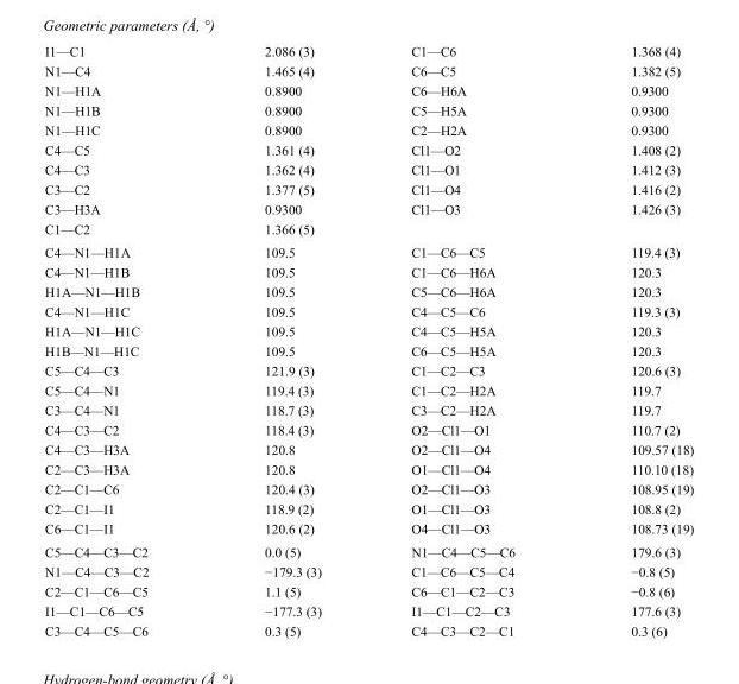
<table><tbody><tr><td>I1—C1</td><td>2.086 (3)</td><td>C1—C6</td><td>1.368 (4)</td></tr><tr><td>N1—C4</td><td>1.465 (4)</td><td>C6—C5</td><td>1.382 (5)</td></tr><tr><td>N1—H1A</td><td>0.8900</td><td>C6—H6A</td><td>0.9300</td></tr><tr><td>N1—H1B</td><td>0.8900</td><td>C5—H5A</td><td>0.9300</td></tr><tr><td>N1—H1C</td><td>0.8900</td><td>C2—H2A</td><td>0.9300</td></tr><tr><td>C4—C5</td><td>1.361 (4)</td><td>Cl1—O2</td><td>1.408 (2)</td></tr><tr><td>C4—C3</td><td>1.362 (4)</td><td>Cl1—O1</td><td>1.412 (3)</td></tr><tr><td>C3—C2</td><td>1.377 (5)</td><td>Cl1—O4</td><td>1.416 (2)</td></tr><tr><td>C3—H3A</td><td>0.9300</td><td>Cl1—O3</td><td>1.426 (3)</td></tr><tr><td>C1—C2</td><td>1.366 (5)</td><td></td><td></td></tr><tr><td>C4—N1—H1A</td><td>109.5</td><td>C1—C6—C5</td><td>119.4 (3)</td></tr><tr><td>C4—N1—H1B</td><td>109.5</td><td>C1—C6—H6A</td><td>120.3</td></tr><tr><td>H1A—N1—H1B</td><td>109.5</td><td>C5—C6—H6A</td><td>120.3</td></tr><tr><td>C4—N1—H1C</td><td>109.5</td><td>C4—C5—C6</td><td>119.3 (3)</td></tr><tr><td>H1A—N1—H1C</td><td>109.5</td><td>C4—C5—H5A</td><td>120.3</td></tr><tr><td>H1B—N1—H1C</td><td>109.5</td><td>C6—C5—H5A</td><td>120.3</td></tr><tr><td>C5—C4—C3</td><td>121.9 (3)</td><td>C1—C2—C3</td><td>120.6 (3)</td></tr><tr><td>C5—C4—N1</td><td>119.4 (3)</td><td>C1—C2—H2A</td><td>119.7</td></tr><tr><td>C3—C4—N1</td><td>118.7 (3)</td><td>C3—C2—H2A</td><td>119.7</td></tr><tr><td>C4—C3—C2</td><td>118.4 (3)</td><td>O2—Cl1—O1</td><td>110.7 (2)</td></tr><tr><td>C4—C3—H3A</td><td>120.8</td><td>O2—Cl1—O4</td><td>109.57 (18)</td></tr><tr><td>C2—C3—H3A</td><td>120.8</td><td>O1—Cl1—O4</td><td>110.10 (18)</td></tr><tr><td>C2—C1—C6</td><td>120.4 (3)</td><td>O2—Cl1—O3</td><td>108.95 (19)</td></tr><tr><td>C2—C1—I1</td><td>118.9 (2)</td><td>O1—Cl1—O3</td><td>108.8 (2)</td></tr><tr><td>C6—C1—I1</td><td>120.6 (2)</td><td>O4—Cl1—O3</td><td>108.73 (19)</td></tr><tr><td>C5—C4—C3—C2</td><td>0.0 (5)</td><td>N1—C4—C5—C6</td><td>179.6 (3)</td></tr><tr><td>N1—C4—C3—C2</td><td>−179.3 (3)</td><td>C1—C6—C5—C4</td><td>−0.8 (5)</td></tr><tr><td>C2—C1—C6—C5</td><td>1.1 (5)</td><td>C6—C1—C2—C3</td><td>−0.8 (6)</td></tr><tr><td>I1—C1—C6—C5</td><td>−177.3 (3)</td><td>I1—C1—C2—C3</td><td>177.6 (3)</td></tr><tr><td>C3—C4—C5—C6</td><td>0.3 (5)</td><td>C4—C3—C2—C1</td><td>0.3 (6)</td></tr></tbody></table>